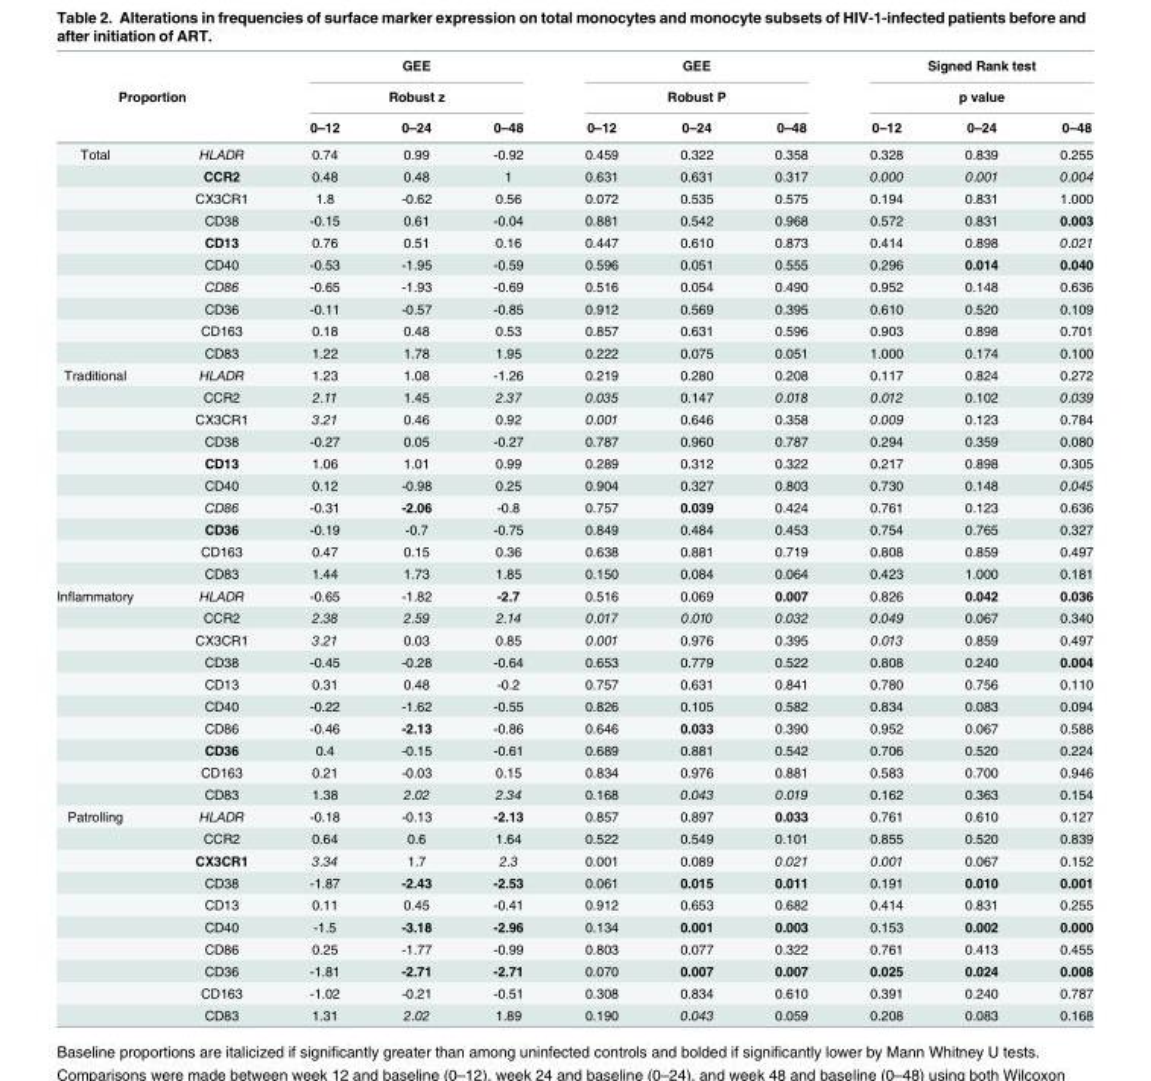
<table><thead><tr><td></td><td></td><td rowspan="2" colspan="3">GEE Robust z</td><td rowspan="2" colspan="3">GEE Robust P</td><td rowspan="2" colspan="3">Signed Rank test p value</td></tr><tr><td colspan="2">Proportion</td></tr><tr><td></td><td></td><td>0–12</td><td>0–24</td><td>0–48</td><td>0–12</td><td>0–24</td><td>0–48</td><td>0–12</td><td>0–24</td><td>0–48</td></tr></thead><tbody><tr><td rowspan="10">Total</td><td>HLADR</td><td>0.74</td><td>0.99</td><td>-0.92</td><td>0.459</td><td>0.322</td><td>0.358</td><td>0.328</td><td>0.839</td><td>0.255</td></tr><tr><td>CCR2</td><td>0.48</td><td>0.48</td><td>1</td><td>0.631</td><td>0.631</td><td>0.317</td><td>0.000</td><td>0.001</td><td>0.004</td></tr><tr><td>CX3CR1</td><td>1.8</td><td>-0.62</td><td>0.56</td><td>0.072</td><td>0.535</td><td>0.575</td><td>0.194</td><td>0.831</td><td>1.000</td></tr><tr><td>CD38</td><td>-0.15</td><td>0.61</td><td>-0.04</td><td>0.881</td><td>0.542</td><td>0.968</td><td>0.572</td><td>0.831</td><td>0.003</td></tr><tr><td>CD13</td><td>0.76</td><td>0.51</td><td>0.16</td><td>0.447</td><td>0.610</td><td>0.873</td><td>0.414</td><td>0.898</td><td>0.021</td></tr><tr><td>CD40</td><td>-0.53</td><td>-1.95</td><td>-0.59</td><td>0.596</td><td>0.051</td><td>0.555</td><td>0.296</td><td>0.014</td><td>0.040</td></tr><tr><td>CD86</td><td>-0.65</td><td>-1.93</td><td>-0.69</td><td>0.516</td><td>0.054</td><td>0.490</td><td>0.952</td><td>0.148</td><td>0.636</td></tr><tr><td>CD36</td><td>-0.11</td><td>-0.57</td><td>-0.85</td><td>0.912</td><td>0.569</td><td>0.395</td><td>0.610</td><td>0.520</td><td>0.109</td></tr><tr><td>CD163</td><td>0.18</td><td>0.48</td><td>0.53</td><td>0.857</td><td>0.631</td><td>0.596</td><td>0.903</td><td>0.898</td><td>0.701</td></tr><tr><td>CD83</td><td>1.22</td><td>1.78</td><td>1.95</td><td>0.222</td><td>0.075</td><td>0.051</td><td>1.000</td><td>0.174</td><td>0.100</td></tr><tr><td rowspan="10">Traditional</td><td>HLADR</td><td>1.23</td><td>1.08</td><td>-1.26</td><td>0.219</td><td>0.280</td><td>0.208</td><td>0.117</td><td>0.824</td><td>0.272</td></tr><tr><td>CCR2</td><td>2.11</td><td>1.45</td><td>2.37</td><td>0.035</td><td>0.147</td><td>0.018</td><td>0.012</td><td>0.102</td><td>0.039</td></tr><tr><td>CX3CR1</td><td>3.21</td><td>0.46</td><td>0.92</td><td>0.001</td><td>0.646</td><td>0.358</td><td>0.009</td><td>0.123</td><td>0.784</td></tr><tr><td>CD38</td><td>-0.27</td><td>0.05</td><td>-0.27</td><td>0.787</td><td>0.960</td><td>0.787</td><td>0.294</td><td>0.359</td><td>0.080</td></tr><tr><td>CD13</td><td>1.06</td><td>1.01</td><td>0.99</td><td>0.289</td><td>0.312</td><td>0.322</td><td>0.217</td><td>0.898</td><td>0.305</td></tr><tr><td>CD40</td><td>0.12</td><td>-0.98</td><td>0.25</td><td>0.904</td><td>0.327</td><td>0.803</td><td>0.730</td><td>0.148</td><td>0.045</td></tr><tr><td>CD86</td><td>-0.31</td><td>-2.06</td><td>-0.8</td><td>0.757</td><td>0.039</td><td>0.424</td><td>0.761</td><td>0.123</td><td>0.636</td></tr><tr><td>CD36</td><td>-0.19</td><td>-0.7</td><td>-0.75</td><td>0.849</td><td>0.484</td><td>0.453</td><td>0.754</td><td>0.765</td><td>0.327</td></tr><tr><td>CD163</td><td>0.47</td><td>0.15</td><td>0.36</td><td>0.638</td><td>0.881</td><td>0.719</td><td>0.808</td><td>0.859</td><td>0.497</td></tr><tr><td>CD83</td><td>1.44</td><td>1.73</td><td>1.85</td><td>0.150</td><td>0.084</td><td>0.064</td><td>0.423</td><td>1.000</td><td>0.181</td></tr><tr><td rowspan="10">Inflammatory</td><td>HLADR</td><td>-0.65</td><td>-1.82</td><td>-2.7</td><td>0.516</td><td>0.069</td><td>0.007</td><td>0.826</td><td>0.042</td><td>0.036</td></tr><tr><td>CCR2</td><td>2.38</td><td>2.59</td><td>2.14</td><td>0.017</td><td>0.010</td><td>0.032</td><td>0.049</td><td>0.067</td><td>0.340</td></tr><tr><td>CX3CR1</td><td>3.21</td><td>0.03</td><td>0.85</td><td>0.001</td><td>0.976</td><td>0.395</td><td>0.013</td><td>0.859</td><td>0.497</td></tr><tr><td>CD38</td><td>-0.45</td><td>-0.28</td><td>-0.64</td><td>0.653</td><td>0.779</td><td>0.522</td><td>0.808</td><td>0.240</td><td>0.004</td></tr><tr><td>CD13</td><td>0.31</td><td>0.48</td><td>-0.2</td><td>0.757</td><td>0.631</td><td>0.841</td><td>0.780</td><td>0.756</td><td>0.110</td></tr><tr><td>CD40</td><td>-0.22</td><td>-1.62</td><td>-0.55</td><td>0.826</td><td>0.105</td><td>0.582</td><td>0.834</td><td>0.083</td><td>0.094</td></tr><tr><td>CD86</td><td>-0.46</td><td>-2.13</td><td>-0.86</td><td>0.646</td><td>0.033</td><td>0.390</td><td>0.952</td><td>0.067</td><td>0.588</td></tr><tr><td>CD36</td><td>0.4</td><td>-0.15</td><td>-0.61</td><td>0.689</td><td>0.881</td><td>0.542</td><td>0.706</td><td>0.520</td><td>0.224</td></tr><tr><td>CD163</td><td>0.21</td><td>-0.03</td><td>0.15</td><td>0.834</td><td>0.976</td><td>0.881</td><td>0.583</td><td>0.700</td><td>0.946</td></tr><tr><td>CD83</td><td>1.38</td><td>2.02</td><td>2.34</td><td>0.168</td><td>0.043</td><td>0.019</td><td>0.162</td><td>0.363</td><td>0.154</td></tr><tr><td rowspan="10">Patrolling</td><td>HLADR</td><td>-0.18</td><td>-0.13</td><td>-2.13</td><td>0.857</td><td>0.897</td><td>0.033</td><td>0.761</td><td>0.610</td><td>0.127</td></tr><tr><td>CCR2</td><td>0.64</td><td>0.6</td><td>1.64</td><td>0.522</td><td>0.549</td><td>0.101</td><td>0.855</td><td>0.520</td><td>0.839</td></tr><tr><td>CX3CR1</td><td>3.34</td><td>1.7</td><td>2.3</td><td>0.001</td><td>0.089</td><td>0.021</td><td>0.001</td><td>0.067</td><td>0.152</td></tr><tr><td>CD38</td><td>-1.87</td><td>-2.43</td><td>-2.53</td><td>0.061</td><td>0.015</td><td>0.011</td><td>0.191</td><td>0.010</td><td>0.001</td></tr><tr><td>CD13</td><td>0.11</td><td>0.45</td><td>-0.41</td><td>0.912</td><td>0.653</td><td>0.682</td><td>0.414</td><td>0.831</td><td>0.255</td></tr><tr><td>CD40</td><td>-1.5</td><td>-3.18</td><td>-2.96</td><td>0.134</td><td>0.001</td><td>0.003</td><td>0.153</td><td>0.002</td><td>0.000</td></tr><tr><td>CD86</td><td>0.25</td><td>-1.77</td><td>-0.99</td><td>0.803</td><td>0.077</td><td>0.322</td><td>0.761</td><td>0.413</td><td>0.455</td></tr><tr><td>CD36</td><td>-1.81</td><td>-2.71</td><td>-2.71</td><td>0.070</td><td>0.007</td><td>0.007</td><td>0.025</td><td>0.024</td><td>0.008</td></tr><tr><td>CD163</td><td>-1.02</td><td>-0.21</td><td>-0.51</td><td>0.308</td><td>0.834</td><td>0.610</td><td>0.391</td><td>0.240</td><td>0.787</td></tr><tr><td>CD83</td><td>1.31</td><td>2.02</td><td>1.89</td><td>0.190</td><td>0.043</td><td>0.059</td><td>0.208</td><td>0.083</td><td>0.168</td></tr></tbody></table>